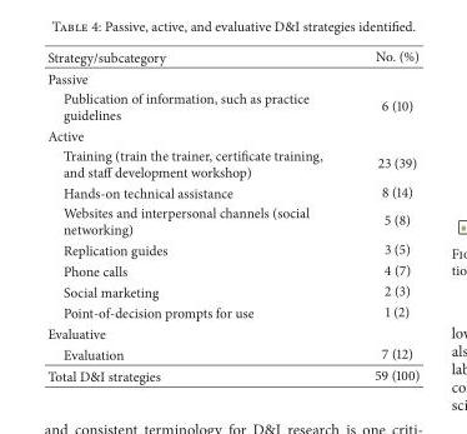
<table><thead><tr><td>Strategy/subcategory</td><td>No. (%)</td></tr></thead><tbody><tr><td colspan="2">Passive</td></tr><tr><td>Publication of information, such as practice guidelines</td><td>6 (10)</td></tr><tr><td colspan="2">Active</td></tr><tr><td>Training (train the trainer, certificate training, and staff development workshop)</td><td>23 (39)</td></tr><tr><td>Hands-on technical assistance</td><td>8 (14)</td></tr><tr><td>Websites and interpersonal channels (social networking)</td><td>5 (8)</td></tr><tr><td>Replication guides</td><td>3 (5)</td></tr><tr><td>Phone calls</td><td>4 (7)</td></tr><tr><td>Social marketing</td><td>2 (3)</td></tr><tr><td>Point-of-decision prompts for use</td><td>1 (2)</td></tr><tr><td colspan="2">Evaluative</td></tr><tr><td>Evaluation</td><td>7 (12)</td></tr><tr><td>Total D&amp;I strategies</td><td>59 (100)</td></tr></tbody></table>